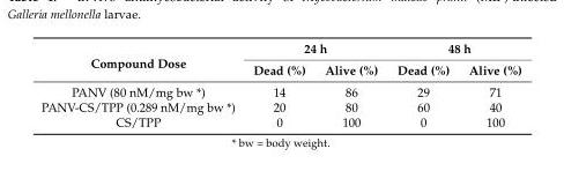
<table><thead><tr><td rowspan="2">Compound Dose</td><td colspan="2">24 h</td><td colspan="2">48 h</td></tr><tr><td>Dead (%)</td><td>Alive (%)</td><td>Dead (%)</td><td>Alive (%)</td></tr></thead><tbody><tr><td>PANV (80 nM/mg bw *)</td><td>14</td><td>86</td><td>29</td><td>71</td></tr><tr><td>PANV-CS/TPP (0.289 nM/mg bw *)</td><td>20</td><td>80</td><td>60</td><td>40</td></tr><tr><td>CS/TPP</td><td>0</td><td>100</td><td>0</td><td>100</td></tr></tbody></table>